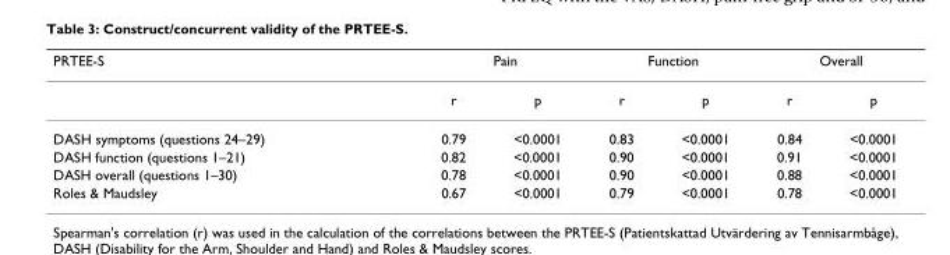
<table><thead><tr><td rowspan="2">PRTEE-S</td><td colspan="2">Pain</td><td colspan="2">Function</td><td colspan="2">Overall</td></tr><tr><td>r</td><td>p</td><td>r</td><td>p</td><td>r</td><td>p</td></tr></thead><tbody><tr><td>DASH symptoms (questions 24–29)</td><td>0.79</td><td>&lt;0.0001</td><td>0.83</td><td>&lt;0.0001</td><td>0.84</td><td>&lt;0.0001</td></tr><tr><td>DASH function (questions 1–21)</td><td>0.82</td><td>&lt;0.0001</td><td>0.90</td><td>&lt;0.0001</td><td>0.91</td><td>&lt;0.0001</td></tr><tr><td>DASH overall (questions 1–30)</td><td>0.78</td><td>&lt;0.0001</td><td>0.90</td><td>&lt;0.0001</td><td>0.88</td><td>&lt;0.0001</td></tr><tr><td>Roles &amp; Maudsley</td><td>0.67</td><td>&lt;0.0001</td><td>0.79</td><td>&lt;0.0001</td><td>0.78</td><td>&lt;0.0001</td></tr></tbody></table>